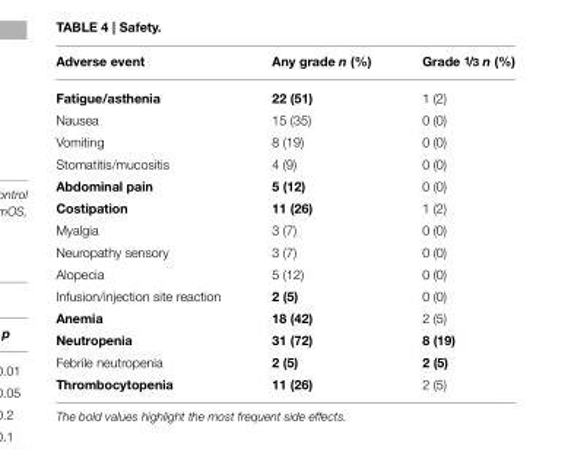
<table><thead><tr><td>Adverse event</td><td>Any grade n (%)</td><td>Grade 1/3 n (%)</td></tr></thead><tbody><tr><td>Fatigue/asthenia</td><td>22 (51)</td><td>1 (2)</td></tr><tr><td>Nausea</td><td>15 (35)</td><td>0 (0)</td></tr><tr><td>Vomiting</td><td>8 (19)</td><td>0 (0)</td></tr><tr><td>Stomatitis/mucositis</td><td>4 (9)</td><td>0 (0)</td></tr><tr><td>Abdominal pain</td><td>5 (12)</td><td>0 (0)</td></tr><tr><td>Costipation</td><td>11 (26)</td><td>1 (2)</td></tr><tr><td>Myalgia</td><td>3 (7)</td><td>0 (0)</td></tr><tr><td>Neuropathy sensory</td><td>3 (7)</td><td>0 (0)</td></tr><tr><td>Alopecia</td><td>5 (12)</td><td>0 (0)</td></tr><tr><td>Infusion/injection site reaction</td><td>2 (5)</td><td>0 (0)</td></tr><tr><td>Anemia</td><td>18 (42)</td><td>2 (5)</td></tr><tr><td>Neutropenia</td><td>31 (72)</td><td>8 (19)</td></tr><tr><td>Febrile neutropenia</td><td>2 (5)</td><td>2 (5)</td></tr><tr><td>Thrombocytopenia</td><td>11 (26)</td><td>2 (5)</td></tr></tbody></table>